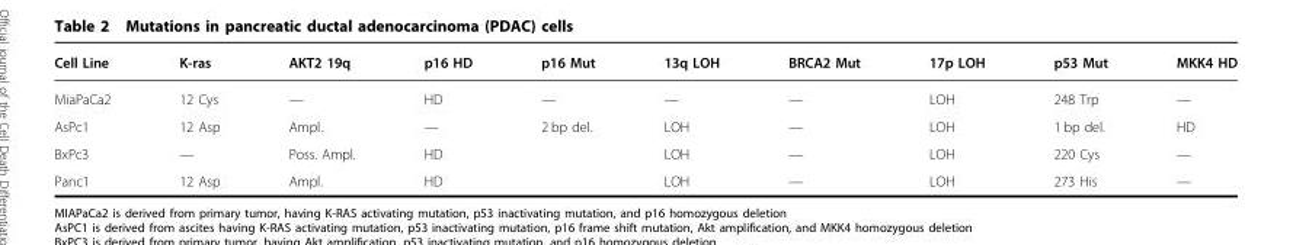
<table><thead><tr><td>Cell Line</td><td>K-ras</td><td>AKT2 19q</td><td>p16 HD</td><td>p16 Mut</td><td>13q LOH</td><td>BRCA2 Mut</td><td>17p LOH</td><td>p53 Mut</td><td>MKK4 HD</td></tr></thead><tbody><tr><td>MiaPaCa2</td><td>12 Cys</td><td>—</td><td>HD</td><td>—</td><td>—</td><td>—</td><td>LOH</td><td>248 Trp</td><td>—</td></tr><tr><td>AsPc1</td><td>12 Asp</td><td>Ampl.</td><td>—</td><td>2 bp del.</td><td>LOH</td><td>—</td><td>LOH</td><td>1 bp del.</td><td>HD</td></tr><tr><td>BxPc3</td><td>—</td><td>Poss. Ampl.</td><td>HD</td><td></td><td>LOH</td><td>—</td><td>LOH</td><td>220 Cys</td><td>—</td></tr><tr><td>Panc1</td><td>12 Asp</td><td>Ampl.</td><td>HD</td><td></td><td>LOH</td><td>—</td><td>LOH</td><td>273 His</td><td>—</td></tr></tbody></table>